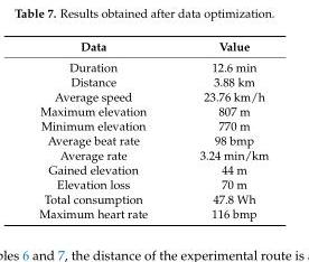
<table><thead><tr><td>Data</td><td>Value</td></tr></thead><tbody><tr><td>Duration</td><td>12.6 min</td></tr><tr><td>Distance</td><td>3.88 km</td></tr><tr><td>Average speed</td><td>23.76 km/h</td></tr><tr><td>Maximum elevation</td><td>807 m</td></tr><tr><td>Minimum elevation</td><td>770 m</td></tr><tr><td>Average beat rate</td><td>98 bmp</td></tr><tr><td>Average rate</td><td>3.24 min/km</td></tr><tr><td>Gained elevation</td><td>44 m</td></tr><tr><td>Elevation loss</td><td>70 m</td></tr><tr><td>Total consumption</td><td>47.8 Wh</td></tr><tr><td>Maximum heart rate</td><td>116 bmp</td></tr></tbody></table>